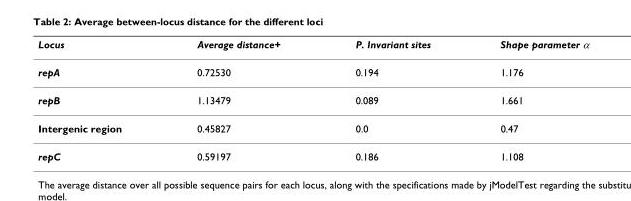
<table><thead><tr><td>Locus</td><td>Average distance+</td><td>P. Invariant sites</td><td>Shape parameter α</td></tr></thead><tbody><tr><td>repA</td><td>0.72530</td><td>0.194</td><td>1.176</td></tr><tr><td>repB</td><td>1.13479</td><td>0.089</td><td>1.661</td></tr><tr><td>Intergenic region</td><td>0.45827</td><td>0.0</td><td>0.47</td></tr><tr><td>repC</td><td>0.59197</td><td>0.186</td><td>1.108</td></tr></tbody></table>